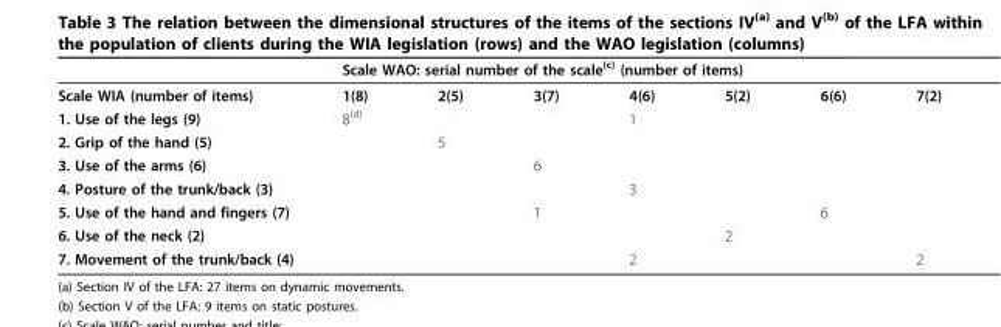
<table><thead><tr><td rowspan="2">Scale WIA (number of items)</td><td colspan="7">Scale WAO: serial number of the scale<sup>(c)</sup> (number of items)</td></tr><tr><td>1(8)</td><td>2(5)</td><td>3(7)</td><td>4(6)</td><td>5(2)</td><td>6(6)</td><td>7(2)</td></tr></thead><tbody><tr><td>1. Use of the legs (9)</td><td>8<sup>(d)</sup></td><td></td><td></td><td>1</td><td></td><td></td><td></td></tr><tr><td>2. Grip of the hand (5)</td><td></td><td>5</td><td></td><td></td><td></td><td></td><td></td></tr><tr><td>3. Use of the arms (6)</td><td></td><td></td><td>6</td><td></td><td></td><td></td><td></td></tr><tr><td>4. Posture of the trunk/back (3)</td><td></td><td></td><td></td><td>3</td><td></td><td></td><td></td></tr><tr><td>5. Use of the hand and fingers (7)</td><td></td><td></td><td>1</td><td></td><td></td><td>6</td><td></td></tr><tr><td>6. Use of the neck (2)</td><td></td><td></td><td></td><td></td><td>2</td><td></td><td></td></tr><tr><td>7. Movement of the trunk/back (4)</td><td></td><td></td><td></td><td>2</td><td></td><td></td><td>2</td></tr></tbody></table>